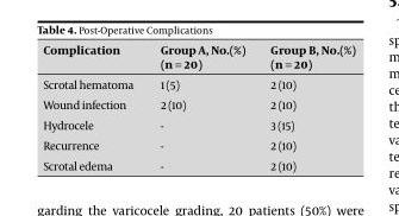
<table><thead><tr><td>Complication</td><td>Group A, No.(%) (n = 20)</td><td>Group B, No.(%) (n = 20)</td></tr></thead><tbody><tr><td>Scrotal hematoma</td><td>1 (5)</td><td>2 (10)</td></tr><tr><td>Wound infection</td><td>2 (10)</td><td>2 (10)</td></tr><tr><td>hydrocele</td><td>-</td><td>3 (15)</td></tr><tr><td>Recurrence</td><td>-</td><td>2 (10)</td></tr><tr><td>Scrotal edema</td><td>-</td><td>2 (10)</td></tr></tbody></table>